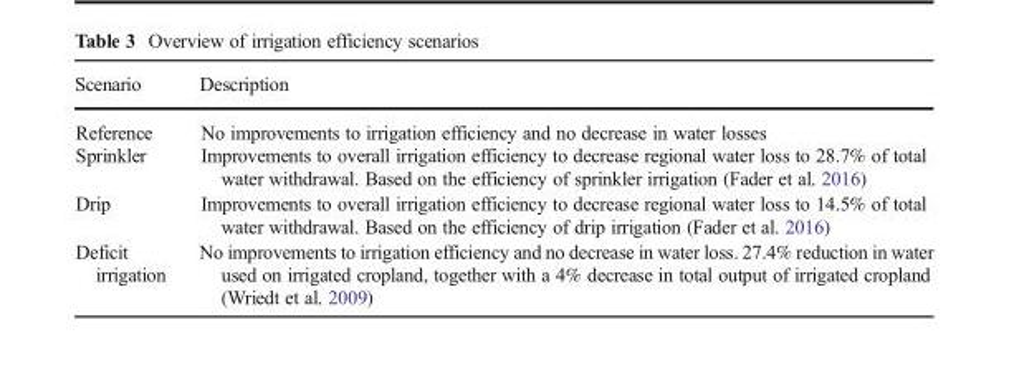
<table><thead><tr><td>Scenario</td><td>Description</td></tr></thead><tbody><tr><td>Reference</td><td>No improvements to irrigation efficiency and no decrease in water losses</td></tr><tr><td>Sprinkler</td><td>Improvements to overall irrigation efficiency to decrease regional water loss to 28.7% of total water withdrawal. Based on the efficiency of sprinkler irrigation (Fader et al. 2016)</td></tr><tr><td>Drip</td><td>Improvements to overall irrigation efficiency to decrease regional water loss to 14.5% of total water withdrawal. Based on the efficiency of drip irrigation (Fader et al. 2016)</td></tr><tr><td>Deficit irrigation</td><td>No improvements to irrigation efficiency and no decrease in water loss. 27.4% reduction in water used on irrigated cropland, together with a 4% decrease in total output of irrigated cropland (Wriedt et al. 2009)</td></tr></tbody></table>